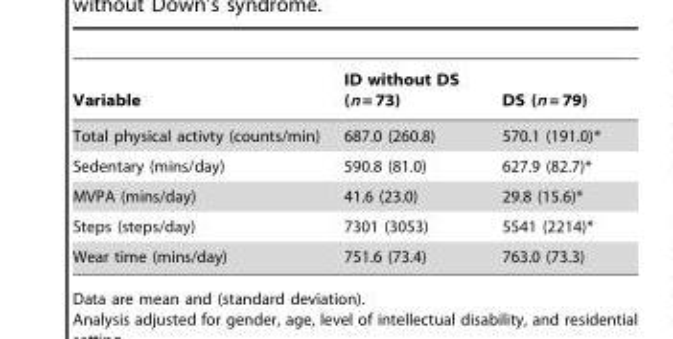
<table><thead><tr><td>Variable</td><td>ID without DS (n = 73)</td><td>DS (n = 79)</td></tr></thead><tbody><tr><td>Total physical activty (counts/min)</td><td>687.0 (260.8)</td><td>570.1 (191.0)*</td></tr><tr><td>Sedentary (mins/day)</td><td>590.8 (81.0)</td><td>627.9 (82.7)*</td></tr><tr><td>MVPA (mins/day)</td><td>41.6 (23.0)</td><td>29.8 (15.6)*</td></tr><tr><td>Steps (steps/day)</td><td>7301 (3053)</td><td>5541 (2214)*</td></tr><tr><td>Wear time (mins/day)</td><td>751.6 (73.4)</td><td>763.0 (73.3)</td></tr></tbody></table>